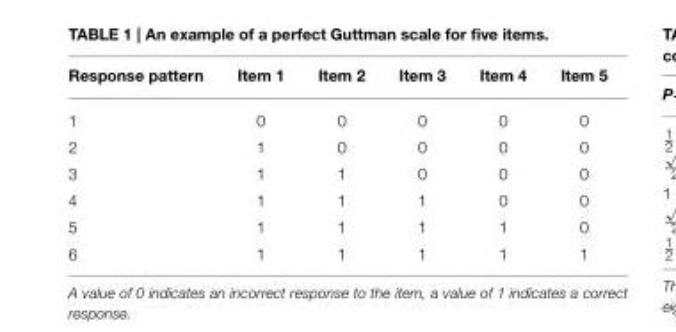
<table><thead><tr><td>Response pattern</td><td>Item 1</td><td>Item 2</td><td>Item 3</td><td>Item 4</td><td>Item 5</td></tr></thead><tbody><tr><td>1</td><td>0</td><td>0</td><td>0</td><td>0</td><td>0</td></tr><tr><td>2</td><td>1</td><td>0</td><td>0</td><td>0</td><td>0</td></tr><tr><td>3</td><td>1</td><td>1</td><td>0</td><td>0</td><td>0</td></tr><tr><td>4</td><td>1</td><td>1</td><td>1</td><td>0</td><td>0</td></tr><tr><td>5</td><td>1</td><td>1</td><td>1</td><td>1</td><td>0</td></tr><tr><td>6</td><td>1</td><td>1</td><td>1</td><td>1</td><td>1</td></tr></tbody></table>